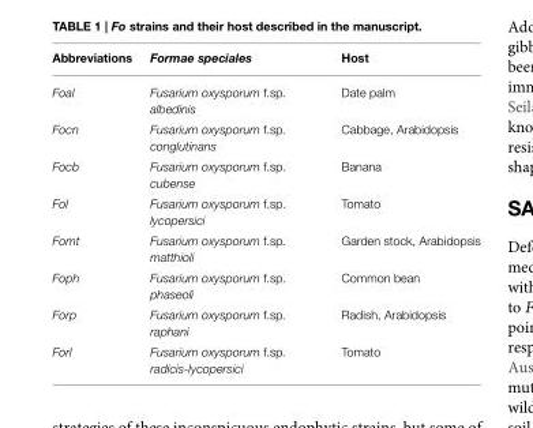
<table><thead><tr><td>Abbreviations</td><td>Formae speciales</td><td>Host</td></tr></thead><tbody><tr><td>Foal</td><td>Fusarium oxysporum f.sp. albedinis</td><td>Date palm</td></tr><tr><td>Focn</td><td>Fusarium oxysporum f.sp. conglutinans</td><td>Cabbage, Arabidopsis</td></tr><tr><td>Focb</td><td>Fusarium oxysporum f.sp. cubense</td><td>Banana</td></tr><tr><td>Fol</td><td>Fusarium oxysporum f.sp. lycopersici</td><td>Tomato</td></tr><tr><td>Fomt</td><td>Fusarium oxysporum f.sp. matthioli</td><td>Garden stock, Arabidopsis</td></tr><tr><td>Foph</td><td>Fusarium oxysporum f.sp. phaseoli</td><td>Common bean</td></tr><tr><td>Forp</td><td>Fusarium oxysporum f.sp. raphani</td><td>Radish, Arabidopsis</td></tr><tr><td>Forl</td><td>Fusarium oxysporum f.sp. radicis-lycopersici</td><td>Tomato</td></tr></tbody></table>